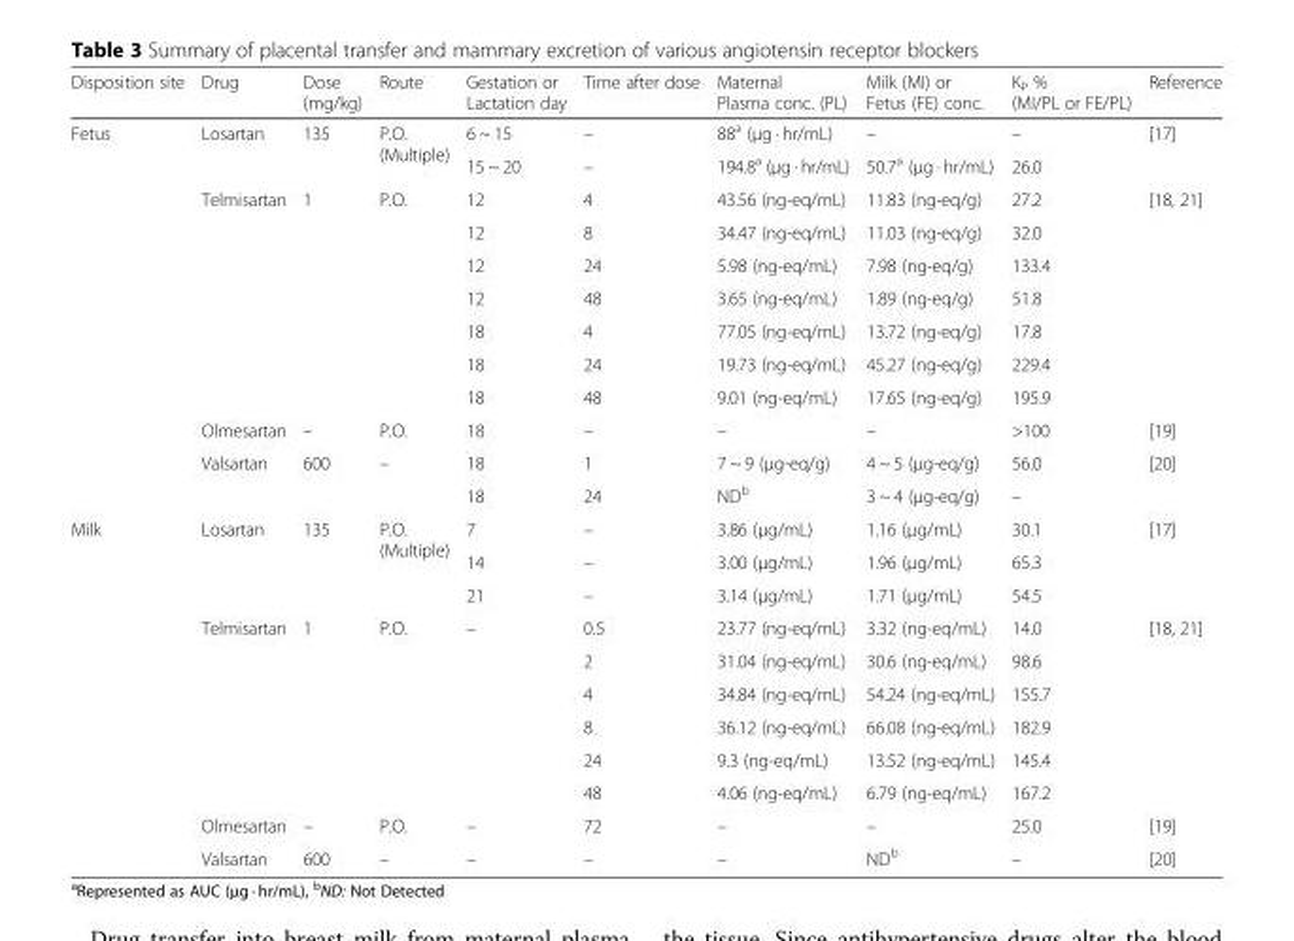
<table><thead><tr><td>Disposition site</td><td>Drug</td><td>Dose (mg/kg)</td><td>Route</td><td>Gestation or Lactation day</td><td>Time after dose</td><td>Maternal Plasma conc. (PL)</td><td>Milk (MI) or Fetus (FE) conc.</td><td>K<sub>P</sub> % (MI/PL or FE/PL)</td><td>Reference</td></tr></thead><tbody><tr><td rowspan="12">Fetus</td><td rowspan="2">Losartan</td><td rowspan="2">135</td><td rowspan="2">P.O. (Multiple)</td><td>6 ~ 15</td><td>–</td><td>88<sup>a</sup> (μg · hr/mL)</td><td>–</td><td>–</td><td rowspan="2">[17]</td></tr><tr><td>15 ~ 20</td><td>–</td><td>194.8<sup>a</sup> (μg · hr/mL)</td><td>50.7<sup>a</sup> (μg · hr/mL)</td><td>26.0</td></tr><tr><td rowspan="7">Telmisartan</td><td rowspan="7">1</td><td rowspan="7">P.O.</td><td>12</td><td>4</td><td>43.56 (ng-eq/mL)</td><td>11.83 (ng-eq/g)</td><td>27.2</td><td rowspan="7">[18, 21]</td></tr><tr><td>12</td><td>8</td><td>34.47 (ng-eq/mL)</td><td>11.03 (ng-eq/g)</td><td>32.0</td></tr><tr><td>12</td><td>24</td><td>5.98 (ng-eq/mL)</td><td>7.98 (ng-eq/g)</td><td>133.4</td></tr><tr><td>12</td><td>48</td><td>3.65 (ng-eq/mL)</td><td>1.89 (ng-eq/g)</td><td>51.8</td></tr><tr><td>18</td><td>4</td><td>77.05 (ng-eq/mL)</td><td>13.72 (ng-eq/g)</td><td>17.8</td></tr><tr><td>18</td><td>24</td><td>19.73 (ng-eq/mL)</td><td>45.27 (ng-eq/g)</td><td>229.4</td></tr><tr><td>18</td><td>48</td><td>9.01 (ng-eq/mL)</td><td>17.65 (ng-eq/g)</td><td>195.9</td></tr><tr><td>Olmesartan</td><td>–</td><td>P.O.</td><td>18</td><td>–</td><td>–</td><td>–</td><td>&gt;100</td><td>[19]</td></tr><tr><td rowspan="2">Valsartan</td><td rowspan="2">600</td><td rowspan="2">–</td><td>18</td><td>1</td><td>7 ~ 9 (μg-eq/g)</td><td>4 ~ 5 (μg-eq/g)</td><td>56.0</td><td rowspan="2">[20]</td></tr><tr><td>18</td><td>24</td><td>ND<sup>b</sup></td><td>3 ~ 4 (μg-eq/g)</td><td>–</td></tr><tr><td rowspan="11">Milk</td><td rowspan="3">Losartan</td><td rowspan="3">135</td><td rowspan="3">P.O. (Multiple)</td><td>7</td><td>–</td><td>3.86 (μg/mL)</td><td>1.16 (μg/mL)</td><td>30.1</td><td rowspan="3">[17]</td></tr><tr><td>14</td><td>–</td><td>3.00 (μg/mL)</td><td>1.96 (μg/mL)</td><td>65.3</td></tr><tr><td>21</td><td>–</td><td>3.14 (μg/mL)</td><td>1.71 (μg/mL)</td><td>54.5</td></tr><tr><td rowspan="6">Telmisartan</td><td rowspan="6">1</td><td rowspan="6">P.O.</td><td rowspan="6">–</td><td>0.5</td><td>23.77 (ng-eq/mL)</td><td>3.32 (ng-eq/mL)</td><td>14.0</td><td rowspan="6">[18, 21]</td></tr><tr><td>2</td><td>31.04 (ng-eq/mL)</td><td>30.6 (ng-eq/mL)</td><td>98.6</td></tr><tr><td>4</td><td>34.84 (ng-eq/mL)</td><td>54.24 (ng-eq/mL)</td><td>155.7</td></tr><tr><td>8</td><td>36.12 (ng-eq/mL)</td><td>66.08 (ng-eq/mL)</td><td>182.9</td></tr><tr><td>24</td><td>9.3 (ng-eq/mL)</td><td>13.52 (ng-eq/mL)</td><td>145.4</td></tr><tr><td>48</td><td>4.06 (ng-eq/mL)</td><td>6.79 (ng-eq/mL)</td><td>167.2</td></tr><tr><td>Olmesartan</td><td>–</td><td>P.O.</td><td>–</td><td>72</td><td>–</td><td>–</td><td>25.0</td><td>[19]</td></tr><tr><td>Valsartan</td><td>600</td><td>–</td><td>–</td><td>–</td><td>–</td><td>ND<sup>b</sup></td><td>–</td><td>[20]</td></tr></tbody></table>